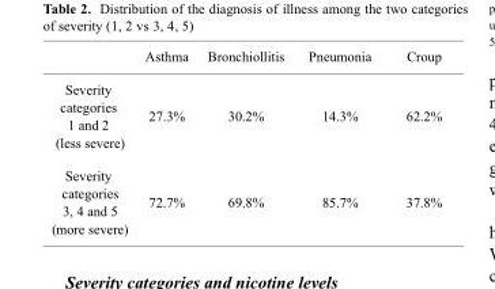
<table><thead><tr><td></td><td>Asthma</td><td>Bronchiollitis</td><td>Pneumonia</td><td>Croup</td></tr></thead><tbody><tr><td>Severity categories 1 and 2 (less severe)</td><td>27.3%</td><td>30.2%</td><td>14.3%</td><td>62.2%</td></tr><tr><td>Severity categories 3, 4 and 5 (more severe)</td><td>72.7%</td><td>69.8%</td><td>85.7%</td><td>37.8%</td></tr></tbody></table>